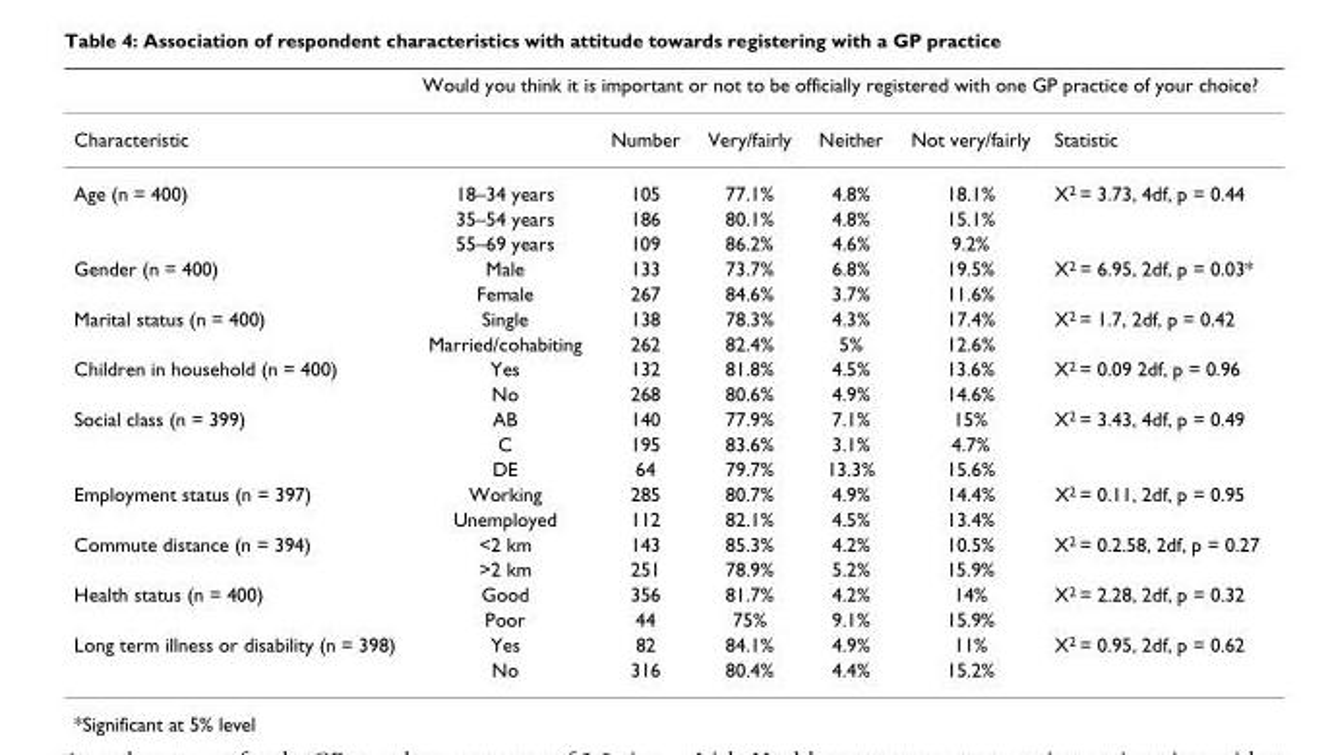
<table><thead><tr><td rowspan="2">Characteristic</td><td colspan="6">Would you think it is important or not to be officially registered with one GP practice of your choice?</td></tr><tr><td></td><td>Number</td><td>Very/fairly</td><td>Neither</td><td>Not very/fairly</td><td>Statistic</td></tr></thead><tbody><tr><td rowspan="3">Age (n = 400)</td><td>18–34 years</td><td>105</td><td>77.1%</td><td>4.8%</td><td>18.1%</td><td>X<sup>2</sup> = 3.73, 4df, p = 0.44</td></tr><tr><td>35–54 years</td><td>186</td><td>80.1%</td><td>4.8%</td><td>15.1%</td><td></td></tr><tr><td>55–69 years</td><td>109</td><td>86.2%</td><td>4.6%</td><td>9.2%</td><td></td></tr><tr><td rowspan="2">Gender (n = 400)</td><td>Male</td><td>133</td><td>73.7%</td><td>6.8%</td><td>19.5%</td><td>X<sup>2</sup> = 6.95, 2df, p = 0.03*</td></tr><tr><td>Female</td><td>267</td><td>84.6%</td><td>3.7%</td><td>11.6%</td><td></td></tr><tr><td rowspan="2">Marital status (n = 400)</td><td>Single</td><td>138</td><td>78.3%</td><td>4.3%</td><td>17.4%</td><td>X<sup>2</sup> = 1.7, 2df, p = 0.42</td></tr><tr><td>Married/cohabiting</td><td>262</td><td>82.4%</td><td>5%</td><td>12.6%</td><td></td></tr><tr><td rowspan="2">Children in household (n = 400)</td><td>Yes</td><td>132</td><td>81.8%</td><td>4.5%</td><td>13.6%</td><td>X<sup>2</sup> = 0.09 2df, p = 0.96</td></tr><tr><td>No</td><td>268</td><td>80.6%</td><td>4.9%</td><td>14.6%</td><td></td></tr><tr><td rowspan="3">Social class (n = 399)</td><td>AB</td><td>140</td><td>77.9%</td><td>7.1%</td><td>15%</td><td>X<sup>2</sup> = 3.43, 4df, p = 0.49</td></tr><tr><td>C</td><td>195</td><td>83.6%</td><td>3.1%</td><td>4.7%</td><td></td></tr><tr><td>DE</td><td>64</td><td>79.7%</td><td>13.3%</td><td>15.6%</td><td></td></tr><tr><td rowspan="2">Employment status (n = 397)</td><td>Working</td><td>285</td><td>80.7%</td><td>4.9%</td><td>14.4%</td><td>X<sup>2</sup> = 0.11, 2df, p = 0.95</td></tr><tr><td>Unemployed</td><td>112</td><td>82.1%</td><td>4.5%</td><td>13.4%</td><td></td></tr><tr><td rowspan="2">Commute distance (n = 394)</td><td>&lt;2 km</td><td>143</td><td>85.3%</td><td>4.2%</td><td>10.5%</td><td>X<sup>2</sup> = 0.2.58, 2df, p = 0.27</td></tr><tr><td>&gt;2 km</td><td>251</td><td>78.9%</td><td>5.2%</td><td>15.9%</td><td></td></tr><tr><td rowspan="2">Health status (n = 400)</td><td>Good</td><td>356</td><td>81.7%</td><td>4.2%</td><td>14%</td><td>X<sup>2</sup> = 2.28, 2df, p = 0.32</td></tr><tr><td>Poor</td><td>44</td><td>75%</td><td>9.1%</td><td>15.9%</td><td></td></tr><tr><td rowspan="2">Long term illness or disability (n = 398)</td><td>Yes</td><td>82</td><td>84.1%</td><td>4.9%</td><td>11%</td><td>X<sup>2</sup> = 0.95, 2df, p = 0.62</td></tr><tr><td>No</td><td>316</td><td>80.4%</td><td>4.4%</td><td>15.2%</td><td></td></tr></tbody></table>